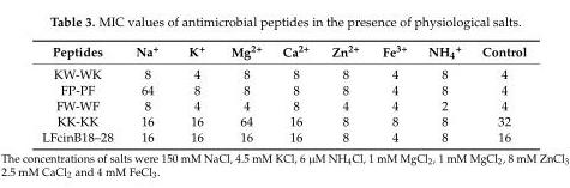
<table><thead><tr><td>Peptides</td><td>Na<sup>+</sup></td><td>K<sup>+</sup></td><td>Mg<sup>2+</sup></td><td>Ca<sup>2+</sup></td><td>Zn<sup>2+</sup></td><td>Fe<sup>3+</sup></td><td>NH<sub>4</sub><sup>+</sup></td><td>Control</td></tr></thead><tbody><tr><td>KW-WK</td><td>8</td><td>4</td><td>8</td><td>8</td><td>8</td><td>4</td><td>8</td><td>4</td></tr><tr><td>FP-PF</td><td>64</td><td>8</td><td>8</td><td>8</td><td>8</td><td>4</td><td>8</td><td>4</td></tr><tr><td>FW-WF</td><td>8</td><td>4</td><td>4</td><td>8</td><td>4</td><td>4</td><td>2</td><td>4</td></tr><tr><td>KK-KK</td><td>16</td><td>16</td><td>64</td><td>16</td><td>8</td><td>8</td><td>8</td><td>32</td></tr><tr><td>LFcinB18–28</td><td>16</td><td>16</td><td>16</td><td>16</td><td>8</td><td>4</td><td>8</td><td>16</td></tr></tbody></table>